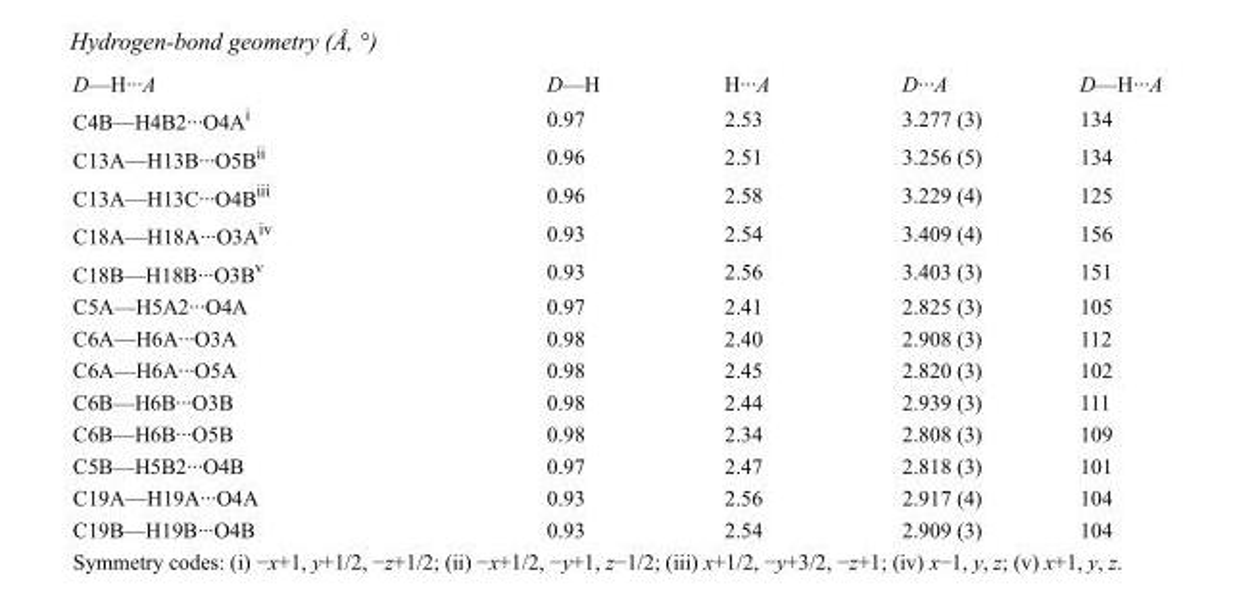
<table><tbody><tr><td>D—H···A</td><td>D—H</td><td>H···A</td><td>D···A</td><td>D—H···A</td></tr><tr><td>C4B—H4B2···O4A<sup>i</sup></td><td>0.97</td><td>2.53</td><td>3.277 (3)</td><td>134</td></tr><tr><td>C13A—H13B···O5B<sup>ii</sup></td><td>0.96</td><td>2.51</td><td>3.256 (5)</td><td>134</td></tr><tr><td>C13A—H13C···O4B<sup>iii</sup></td><td>0.96</td><td>2.58</td><td>3.229 (4)</td><td>125</td></tr><tr><td>C18A—H18A···O3A<sup>iv</sup></td><td>0.93</td><td>2.54</td><td>3.409 (4)</td><td>156</td></tr><tr><td>C18B—H18B···O3B<sup>v</sup></td><td>0.93</td><td>2.56</td><td>3.403 (3)</td><td>151</td></tr><tr><td>C5A—H5A2···O4A</td><td>0.97</td><td>2.41</td><td>2.825 (3)</td><td>105</td></tr><tr><td>C6A—H6A···O3A</td><td>0.98</td><td>2.40</td><td>2.908 (3)</td><td>112</td></tr><tr><td>C6A—H6A···O5A</td><td>0.98</td><td>2.45</td><td>2.820 (3)</td><td>102</td></tr><tr><td>C6B—H6B···O3B</td><td>0.98</td><td>2.44</td><td>2.939 (3)</td><td>111</td></tr><tr><td>C6B—H6B···O5B</td><td>0.98</td><td>2.34</td><td>2.808 (3)</td><td>109</td></tr><tr><td>C5B—H5B2···O4B</td><td>0.97</td><td>2.47</td><td>2.818 (3)</td><td>101</td></tr><tr><td>C19A—H19A···O4A</td><td>0.93</td><td>2.56</td><td>2.917 (4)</td><td>104</td></tr><tr><td>C19B—H19B···O4B</td><td>0.93</td><td>2.54</td><td>2.909 (3)</td><td>104</td></tr></tbody></table>